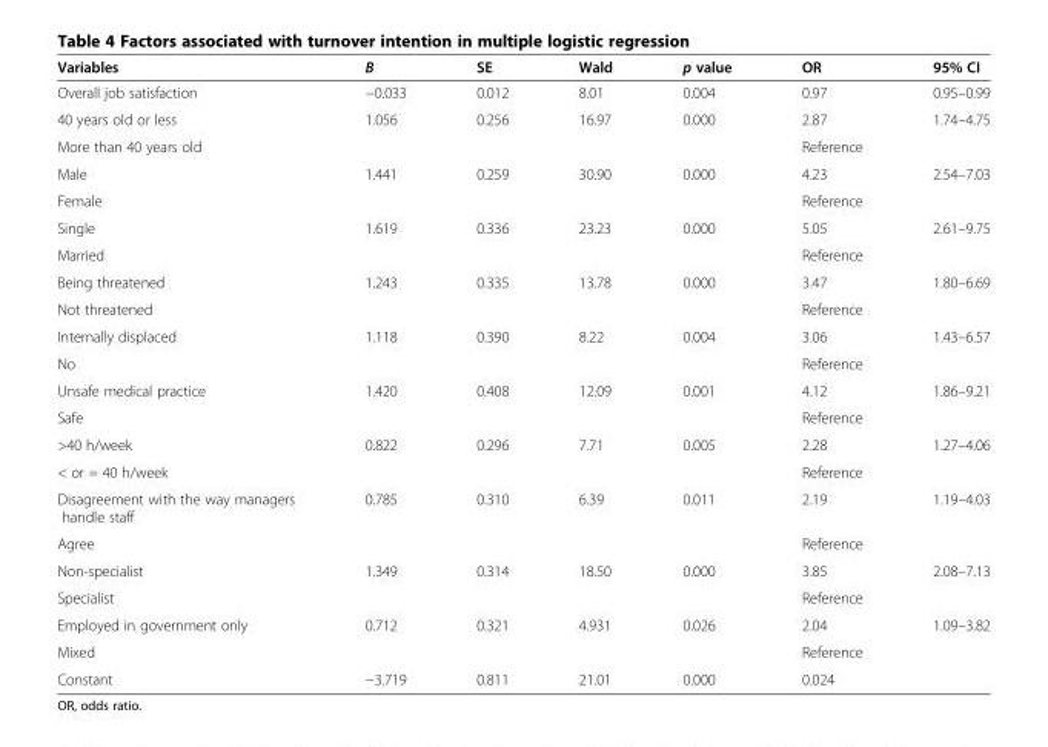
<table><thead><tr><td>Variables</td><td>B</td><td>SE</td><td>Wald</td><td>p value</td><td>OR</td><td>95% CI</td></tr></thead><tbody><tr><td>Overall job satisfaction</td><td>−0.033</td><td>0.012</td><td>8.01</td><td>0.004</td><td>0.97</td><td>0.95–0.99</td></tr><tr><td>40 years old or less</td><td>1.056</td><td>0.256</td><td>16.97</td><td>0.000</td><td>2.87</td><td>1.74–4.75</td></tr><tr><td>More than 40 years old</td><td></td><td></td><td></td><td></td><td>Reference</td><td></td></tr><tr><td>Male</td><td>1.441</td><td>0.259</td><td>30.90</td><td>0.000</td><td>4.23</td><td>2.54–7.03</td></tr><tr><td>Female</td><td></td><td></td><td></td><td></td><td>Reference</td><td></td></tr><tr><td>Single</td><td>1.619</td><td>0.336</td><td>23.23</td><td>0.000</td><td>5.05</td><td>2.61–9.75</td></tr><tr><td>Married</td><td></td><td></td><td></td><td></td><td>Reference</td><td></td></tr><tr><td>Being threatened</td><td>1.243</td><td>0.335</td><td>13.78</td><td>0.000</td><td>3.47</td><td>1.80–6.69</td></tr><tr><td>Not threatened</td><td></td><td></td><td></td><td></td><td>Reference</td><td></td></tr><tr><td>Internally displaced</td><td>1.118</td><td>0.390</td><td>8.22</td><td>0.004</td><td>3.06</td><td>1.43–6.57</td></tr><tr><td>No</td><td></td><td></td><td></td><td></td><td>Reference</td><td></td></tr><tr><td>Unsafe medical practice</td><td>1.420</td><td>0.408</td><td>12.09</td><td>0.001</td><td>4.12</td><td>1.86–9.21</td></tr><tr><td>Safe</td><td></td><td></td><td></td><td></td><td>Reference</td><td></td></tr><tr><td>&gt;40 h/week</td><td>0.822</td><td>0.296</td><td>7.71</td><td>0.005</td><td>2.28</td><td>1.27–4.06</td></tr><tr><td>&lt; or = 40 h/week</td><td></td><td></td><td></td><td></td><td>Reference</td><td></td></tr><tr><td>Disagreement with the way managers handle staff</td><td>0.785</td><td>0.310</td><td>6.39</td><td>0.011</td><td>2.19</td><td>1.19–4.03</td></tr><tr><td>Agree</td><td></td><td></td><td></td><td></td><td>Reference</td><td></td></tr><tr><td>Non-specialist</td><td>1.349</td><td>0.314</td><td>18.50</td><td>0.000</td><td>3.85</td><td>2.08–7.13</td></tr><tr><td>Specialist</td><td></td><td></td><td></td><td></td><td>Reference</td><td></td></tr><tr><td>Employed in government only</td><td>0.712</td><td>0.321</td><td>4.931</td><td>0.026</td><td>2.04</td><td>1.09–3.82</td></tr><tr><td>Mixed</td><td></td><td></td><td></td><td></td><td>Reference</td><td></td></tr><tr><td>Constant</td><td>−3.719</td><td>0.811</td><td>21.01</td><td>0.000</td><td>0.024</td><td></td></tr></tbody></table>